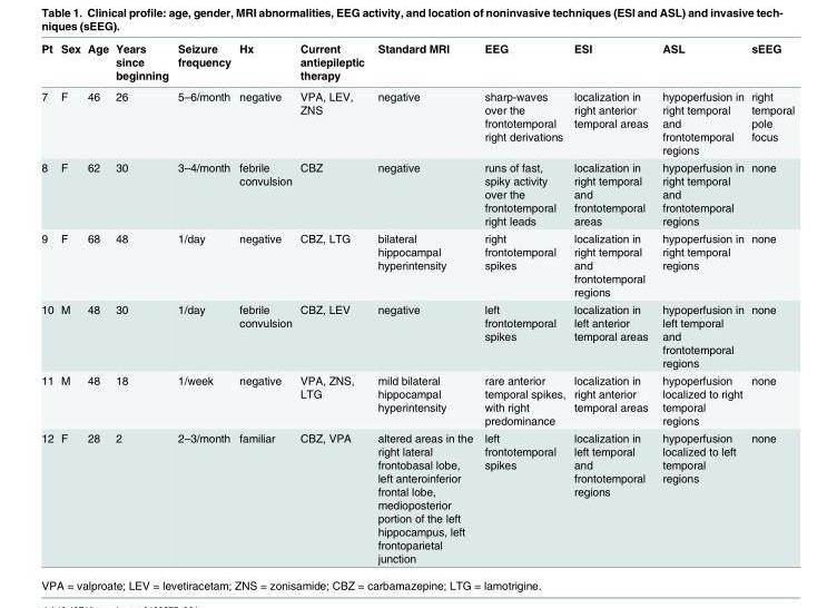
<table><thead><tr><td>Pt</td><td>Sex</td><td>Age</td><td>Years since beginning</td><td>Seizure frequency</td><td>Hx</td><td>Current antiepileptic therapy</td><td>Standard MRI</td><td>EEG</td><td>ESI</td><td>ASL</td><td>sEEG</td></tr></thead><tbody><tr><td>7</td><td>F</td><td>46</td><td>26</td><td>5–6/month</td><td>negative</td><td>VPA, LEV, ZNS</td><td>negative</td><td>sharp-waves over the frontotemporal right derivations</td><td>localization in right anterior temporal areas</td><td>hypoperfusion in right temporal and frontotemporal regions</td><td>right temporal pole focus</td></tr><tr><td>8</td><td>F</td><td>62</td><td>30</td><td>3–4/month</td><td>febrile convulsion</td><td>CBZ</td><td>negative</td><td>runs of fast, spiky activity over the frontotemporal right leads</td><td>localization in right temporal and frontotemporal areas</td><td>hypoperfusion in right temporal and frontotemporal regions</td><td>none</td></tr><tr><td>9</td><td>F</td><td>68</td><td>48</td><td>1/day</td><td>negative</td><td>CBZ, LTG</td><td>bilateral hippocampal hyperintensity</td><td>right frontotemporal spikes</td><td>localization in right temporal and frontotemporal regions</td><td>hypoperfusion in right temporal regions</td><td>none</td></tr><tr><td>10</td><td>M</td><td>48</td><td>30</td><td>1/day</td><td>febrile convulsion</td><td>CBZ, LEV</td><td>negative</td><td>left frontotemporal spikes</td><td>localization in left anterior temporal areas</td><td>hypoperfusion in left temporal and frontotemporal regions</td><td>none</td></tr><tr><td>11</td><td>M</td><td>48</td><td>18</td><td>1/week</td><td>negative</td><td>VPA, ZNS, LTG</td><td>mild bilateral hippocampal hyperintensity</td><td>rare anterior temporal spikes, with right predominance</td><td>localization in right anterior temporal areas</td><td>hypoperfusion localized to right temporal regions</td><td>none</td></tr><tr><td>12</td><td>F</td><td>28</td><td>2</td><td>2–3/month</td><td>familiar</td><td>CBZ, VPA</td><td>altered areas in the right lateral frontobasal lobe, left anteroinferior frontal lobe, medioposterior portion of the left hippocampus, left frontoparietal junction</td><td>left frontotemporal spikes</td><td>localization in left temporal and frontotemporal regions</td><td>hypoperfusion localized to left temporal regions</td><td>none</td></tr></tbody></table>